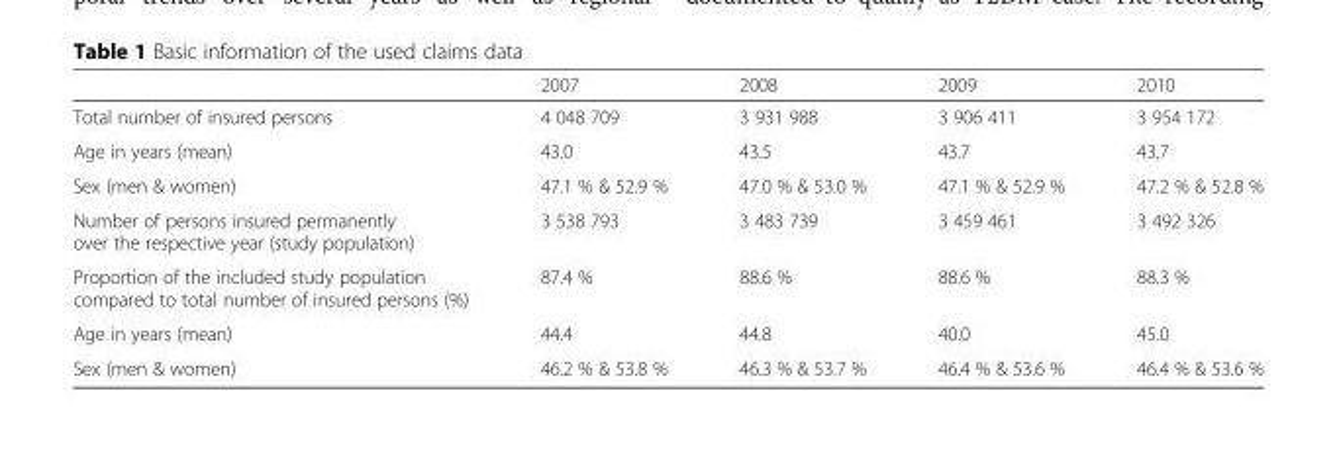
<table><thead><tr><td></td><td>2007</td><td>2008</td><td>2009</td><td>2010</td></tr></thead><tbody><tr><td>Total number of insured persons</td><td>4 048 709</td><td>3 931 988</td><td>3 906 411</td><td>3 954 172</td></tr><tr><td>Age in years (mean)</td><td>43.0</td><td>43.5</td><td>43.7</td><td>43.7</td></tr><tr><td>Sex (men &amp; women)</td><td>47.1 % &amp; 52.9 %</td><td>47.0 % &amp; 53.0 %</td><td>47.1 % &amp; 52.9 %</td><td>47.2 % &amp; 52.8 %</td></tr><tr><td>Number of persons insured permanently over the respective year (study population)</td><td>3 538 793</td><td>3 483 739</td><td>3 459 461</td><td>3 492 326</td></tr><tr><td>Proportion of the included study population compared to total number of insured persons (%)</td><td>87.4 %</td><td>88.6 %</td><td>88.6 %</td><td>88.3 %</td></tr><tr><td>Age in years (mean)</td><td>44.4</td><td>44.8</td><td>40.0</td><td>45.0</td></tr><tr><td>Sex (men &amp; women)</td><td>46.2 % &amp; 53.8 %</td><td>46.3 % &amp; 53.7 %</td><td>46.4 % &amp; 53.6 %</td><td>46.4 % &amp; 53.6 %</td></tr></tbody></table>